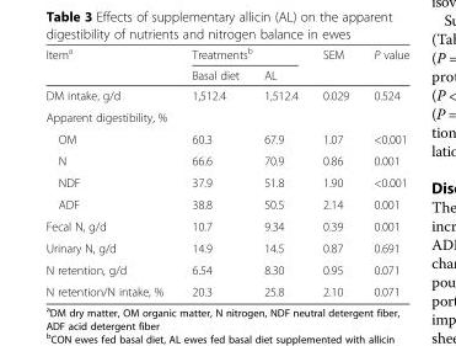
<table><thead><tr><td rowspan="2">Item<sup>a</sup></td><td colspan="2">Treatments<sup>b</sup></td><td rowspan="2">SEM</td><td rowspan="2">P value</td></tr><tr><td>Basal diet</td><td>AL</td></tr></thead><tbody><tr><td>DM intake, g/d</td><td>1,512.4</td><td>1,512.4</td><td>0.029</td><td>0.524</td></tr><tr><td colspan="5">Apparent digestibility, %</td></tr><tr><td>OM</td><td>60.3</td><td>67.9</td><td>1.07</td><td>&lt;0.001</td></tr><tr><td>N</td><td>66.6</td><td>70.9</td><td>0.86</td><td>0.001</td></tr><tr><td>NDF</td><td>37.9</td><td>51.8</td><td>1.90</td><td>&lt;0.001</td></tr><tr><td>ADF</td><td>38.8</td><td>50.5</td><td>2.14</td><td>0.001</td></tr><tr><td>Fecal N, g/d</td><td>10.7</td><td>9.34</td><td>0.39</td><td>0.001</td></tr><tr><td>Urinary N, g/d</td><td>14.9</td><td>14.5</td><td>0.87</td><td>0.691</td></tr><tr><td>N retention, g/d</td><td>6.54</td><td>8.30</td><td>0.95</td><td>0.071</td></tr><tr><td>N retention/N intake, %</td><td>20.3</td><td>25.8</td><td>2.10</td><td>0.071</td></tr></tbody></table>